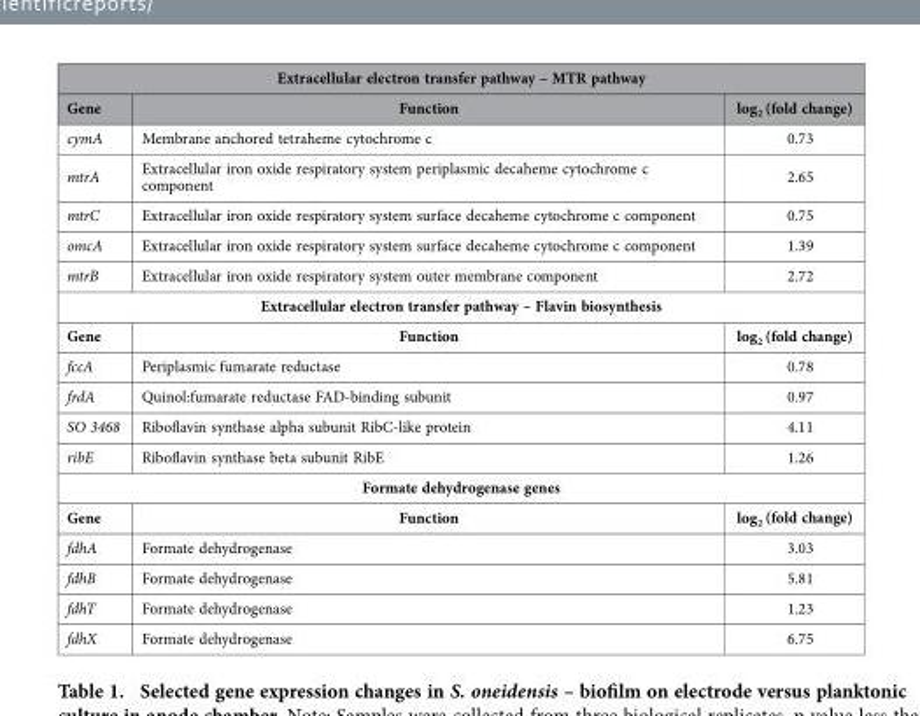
<table><thead><tr><td colspan="3">Extracellular electron transfer pathway – MTR pathway</td></tr><tr><td>Gene</td><td>Function</td><td>log<sub>2</sub> (fold change)</td></tr></thead><tbody><tr><td>cymA</td><td>Membrane anchored tetraheme cytochrome c</td><td>0.73</td></tr><tr><td>mtrA</td><td>Extracellular iron oxide respiratory system periplasmic decaheme cytochrome c component</td><td>2.65</td></tr><tr><td>mtrC</td><td>Extracellular iron oxide respiratory system surface decaheme cytochrome c component</td><td>0.75</td></tr><tr><td>omcA</td><td>Extracellular iron oxide respiratory system surface decaheme cytochrome c component</td><td>1.39</td></tr><tr><td>mtrB</td><td>Extracellular iron oxide respiratory system outer membrane component</td><td>2.72</td></tr><tr><td colspan="3">Extracellular electron transfer pathway – Flavin biosynthesis</td></tr><tr><td>Gene</td><td>Function</td><td>log<sub>2</sub> (fold change)</td></tr><tr><td>fccA</td><td>Periplasmic fumarate reductase</td><td>0.78</td></tr><tr><td>frdA</td><td>Quinol:fumarate reductase FAD-binding subunit</td><td>0.97</td></tr><tr><td>SO 3468</td><td>Riboflavin synthase alpha subunit RibC-like protein</td><td>4.11</td></tr><tr><td>ribE</td><td>Riboflavin synthase beta subunit RibE</td><td>1.26</td></tr><tr><td colspan="3">Formate dehydrogenase genes</td></tr><tr><td>Gene</td><td>Function</td><td>log<sub>2</sub> (fold change)</td></tr><tr><td>fdhA</td><td>Formate dehydrogenase</td><td>3.03</td></tr><tr><td>fdhB</td><td>Formate dehydrogenase</td><td>5.81</td></tr><tr><td>fdhT</td><td>Formate dehydrogenase</td><td>1.23</td></tr><tr><td>fdhX</td><td>Formate dehydrogenase</td><td>6.75</td></tr></tbody></table>